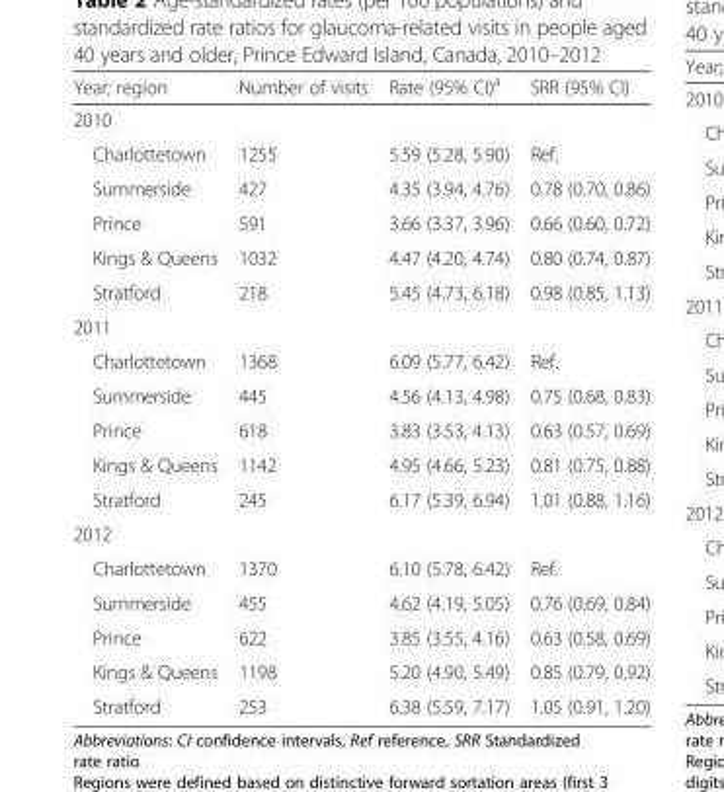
<table><thead><tr><td>Year; region</td><td>Number of visits</td><td>Rate (95% CI)<sup>a</sup></td><td>SRR (95% CI)</td></tr></thead><tbody><tr><td colspan="4">2010</td></tr><tr><td>Charlottetown</td><td>1255</td><td>5.59 (5.28, 5.90)</td><td>Ref.</td></tr><tr><td>Summerside</td><td>427</td><td>4.35 (3.94, 4.76)</td><td>0.78 (0.70, 0.86)</td></tr><tr><td>Prince</td><td>591</td><td>3.66 (3.37, 3.96)</td><td>0.66 (0.60, 0.72)</td></tr><tr><td>Kings &amp; Queens</td><td>1032</td><td>4.47 (4.20, 4.74)</td><td>0.80 (0.74, 0.87)</td></tr><tr><td>Stratford</td><td>218</td><td>5.45 (4.73, 6.18)</td><td>0.98 (0.85, 1.13)</td></tr><tr><td colspan="4">2011</td></tr><tr><td>Charlottetown</td><td>1368</td><td>6.09 (5.77, 6.42)</td><td>Ref.</td></tr><tr><td>Summerside</td><td>445</td><td>4.56 (4.13, 4.98)</td><td>0.75 (0.68, 0.83)</td></tr><tr><td>Prince</td><td>618</td><td>3.83 (3.53, 4.13)</td><td>0.63 (0.57, 0.69)</td></tr><tr><td>Kings &amp; Queens</td><td>1142</td><td>4.95 (4.66, 5.23)</td><td>0.81 (0.75, 0.88)</td></tr><tr><td>Stratford</td><td>245</td><td>6.17 (5.39, 6.94)</td><td>1.01 (0.88, 1.16)</td></tr><tr><td colspan="4">2012</td></tr><tr><td>Charlottetown</td><td>1370</td><td>6.10 (5.78, 6.42)</td><td>Ref.</td></tr><tr><td>Summerside</td><td>455</td><td>4.62 (4.19, 5.05)</td><td>0.76 (0.69, 0.84)</td></tr><tr><td>Prince</td><td>622</td><td>3.85 (3.55, 4.16)</td><td>0.63 (0.58, 0.69)</td></tr><tr><td>Kings &amp; Queens</td><td>1198</td><td>5.20 (4.90, 5.49)</td><td>0.85 (0.79, 0.92)</td></tr><tr><td>Stratford</td><td>253</td><td>6.38 (5.59, 7.17)</td><td>1.05 (0.91, 1.20)</td></tr></tbody></table>